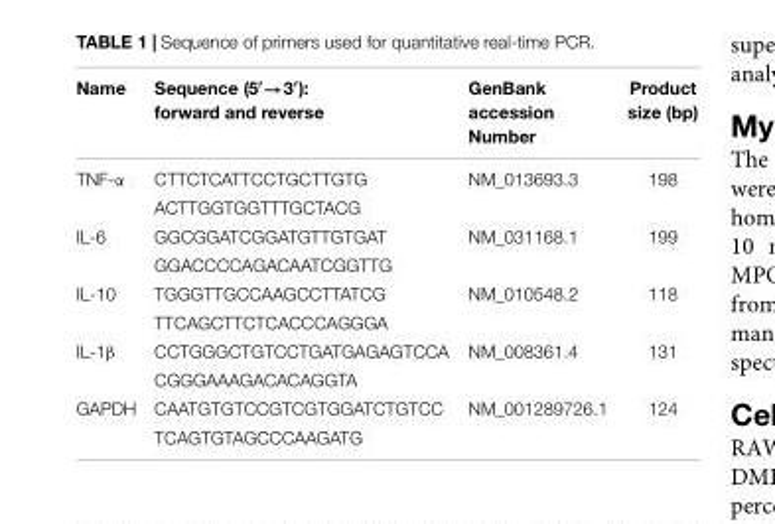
<table><thead><tr><td>Name</td><td>Sequence (5′→3′): forward and reverse</td><td>GenBank accession Number</td><td>Product size (bp)</td></tr></thead><tbody><tr><td rowspan="2">TNF-α</td><td>CTTCTCATTCCTGCTTGTG</td><td>NM_013693.3</td><td>198</td></tr><tr><td>ACTTGGTGGTTTGCTACG</td><td></td><td></td></tr><tr><td rowspan="2">IL-6</td><td>GGCGGATCGGATGTTGTGAT</td><td>NM_031168.1</td><td>199</td></tr><tr><td>GGACCCCAGACAATCGGTTG</td><td></td><td></td></tr><tr><td rowspan="2">IL-10</td><td>TGGGTTGCCAAGCCTTATCG</td><td>NM_010548.2</td><td>118</td></tr><tr><td>TTCAGCTTCTCACCCAGGGA</td><td></td><td></td></tr><tr><td rowspan="2">IL-1β</td><td>CCTGGGCTGTCCTGATGAGAGTCCA</td><td>NM_008361.4</td><td>131</td></tr><tr><td>CGGGAAAGACACAGGTA</td><td></td><td></td></tr><tr><td rowspan="2">GAPDH</td><td>CAATGTGTCCGTCGTGGATCTGTCC</td><td>NM_001289726.1</td><td>124</td></tr><tr><td>TCAGTGTAGCCCAAGATG</td><td></td><td></td></tr></tbody></table>